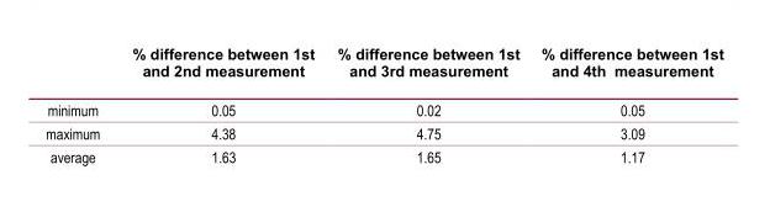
<table><thead><tr><td></td><td>% difference between 1st and 2nd measurement</td><td>% difference between 1st and 3rd measurement</td><td>% difference between 1st and 4th measurement</td></tr></thead><tbody><tr><td>minimum</td><td>0.05</td><td>0.02</td><td>0.05</td></tr><tr><td>maximum</td><td>4.38</td><td>4.75</td><td>3.09</td></tr><tr><td>average</td><td>1.63</td><td>1.65</td><td>1.17</td></tr></tbody></table>